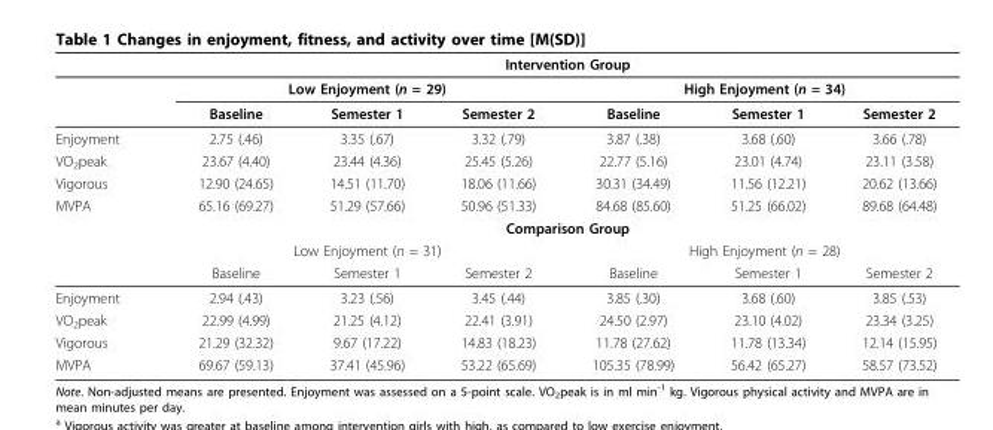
<table><thead><tr><td rowspan="3"></td><td colspan="6">Intervention Group</td></tr><tr><td colspan="3">Low Enjoyment (n = 29)</td><td colspan="3">High Enjoyment (n = 34)</td></tr><tr><td>Baseline</td><td>Semester 1</td><td>Semester 2</td><td>Baseline</td><td>Semester 1</td><td>Semester 2</td></tr></thead><tbody><tr><td>Enjoyment</td><td>2.75 (.46)</td><td>3.35 (.67)</td><td>3.32 (.79)</td><td>3.87 (.38)</td><td>3.68 (.60)</td><td>3.66 (.78)</td></tr><tr><td>VO<sub>2</sub>peak</td><td>23.67 (4.40)</td><td>23.44 (4.36)</td><td>25.45 (5.26)</td><td>22.77 (5.16)</td><td>23.01 (4.74)</td><td>23.11 (3.58)</td></tr><tr><td>Vigorous</td><td>12.90 (24.65)</td><td>14.51 (11.70)</td><td>18.06 (11.66)</td><td>30.31 (34.49)</td><td>11.56 (12.21)</td><td>20.62 (13.66)</td></tr><tr><td rowspan="4">MVPA</td><td>65.16 (69.27)</td><td>51.29 (57.66)</td><td>50.96 (51.33)</td><td>84.68 (85.60)</td><td>51.25 (66.02)</td><td>89.68 (64.48)</td></tr><tr><td colspan="6">Comparison Group</td></tr><tr><td colspan="3">Low Enjoyment (n = 31)</td><td colspan="3">High Enjoyment (n = 28)</td></tr><tr><td>Baseline</td><td>Semester 1</td><td>Semester 2</td><td>Baseline</td><td>Semester 1</td><td>Semester 2</td></tr><tr><td>Enjoyment</td><td>2.94 (.43)</td><td>3.23 (.56)</td><td>3.45 (.44)</td><td>3.85 (.30)</td><td>3.68 (.60)</td><td>3.85 (.53)</td></tr><tr><td>VO<sub>2</sub>peak</td><td>22.99 (4.99)</td><td>21.25 (4.12)</td><td>22.41 (3.91)</td><td>24.50 (2.97)</td><td>23.10 (4.02)</td><td>23.34 (3.25)</td></tr><tr><td>Vigorous</td><td>21.29 (32.32)</td><td>9.67 (17.22)</td><td>14.83 (18.23)</td><td>11.78 (27.62)</td><td>11.78 (13.34)</td><td>12.14 (15.95)</td></tr><tr><td>MVPA</td><td>69.67 (59.13)</td><td>37.41 (45.96)</td><td>53.22 (65.69)</td><td>105.35 (78.99)</td><td>56.42 (65.27)</td><td>58.57 (73.52)</td></tr></tbody></table>